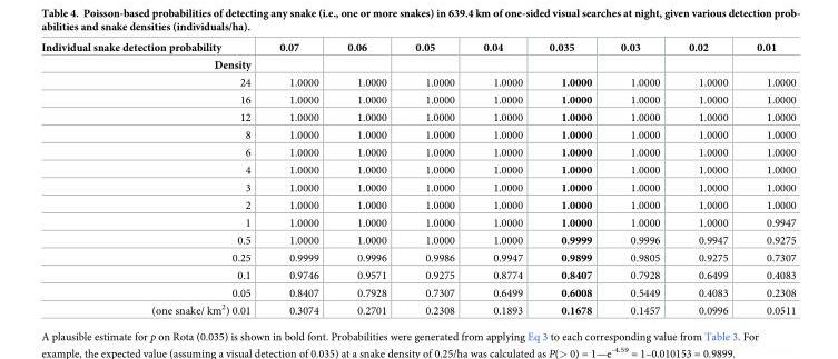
<table><thead><tr><td rowspan="2">Individual snake detection probability Density</td><td rowspan="2">0.07</td><td rowspan="2">0.06</td><td rowspan="2">0.05</td><td rowspan="2">0.04</td><td rowspan="2">0.035</td><td rowspan="2">0.03</td><td rowspan="2">0.02</td><td rowspan="2">0.01</td></tr><tr></tr></thead><tbody><tr><td>24</td><td>1.0000</td><td>1.0000</td><td>1.0000</td><td>1.0000</td><td>1.0000</td><td>1.0000</td><td>1.0000</td><td>1.0000</td></tr><tr><td>16</td><td>1.0000</td><td>1.0000</td><td>1.0000</td><td>1.0000</td><td>1.0000</td><td>1.0000</td><td>1.0000</td><td>1.0000</td></tr><tr><td>12</td><td>1.0000</td><td>1.0000</td><td>1.0000</td><td>1.0000</td><td>1.0000</td><td>1.0000</td><td>1.0000</td><td>1.0000</td></tr><tr><td>8</td><td>1.0000</td><td>1.0000</td><td>1.0000</td><td>1.0000</td><td>1.0000</td><td>1.0000</td><td>1.0000</td><td>1.0000</td></tr><tr><td>6</td><td>1.0000</td><td>1.0000</td><td>1.0000</td><td>1.0000</td><td>1.0000</td><td>1.0000</td><td>1.0000</td><td>1.0000</td></tr><tr><td>4</td><td>1.0000</td><td>1.0000</td><td>1.0000</td><td>1.0000</td><td>1.0000</td><td>1.0000</td><td>1.0000</td><td>1.0000</td></tr><tr><td>3</td><td>1.0000</td><td>1.0000</td><td>1.0000</td><td>1.0000</td><td>1.0000</td><td>1.0000</td><td>1.0000</td><td>1.0000</td></tr><tr><td>2</td><td>1.0000</td><td>1.0000</td><td>1.0000</td><td>1.0000</td><td>1.0000</td><td>1.0000</td><td>1.0000</td><td>1.0000</td></tr><tr><td>1</td><td>1.0000</td><td>1.0000</td><td>1.0000</td><td>1.0000</td><td>1.0000</td><td>1.0000</td><td>1.0000</td><td>0.9947</td></tr><tr><td>0.5</td><td>1.0000</td><td>1.0000</td><td>1.0000</td><td>1.0000</td><td>0.9999</td><td>0.9996</td><td>0.9947</td><td>0.9275</td></tr><tr><td>0.25</td><td>0.9999</td><td>0.9996</td><td>0.9986</td><td>0.9947</td><td>0.9899</td><td>0.9805</td><td>0.9275</td><td>0.7307</td></tr><tr><td>0.1</td><td>0.9746</td><td>0.9571</td><td>0.9275</td><td>0.8774</td><td>0.8407</td><td>0.7928</td><td>0.6499</td><td>0.4083</td></tr><tr><td>0.05</td><td>0.8407</td><td>0.7928</td><td>0.7307</td><td>0.6499</td><td>0.6008</td><td>0.5449</td><td>0.4083</td><td>0.2308</td></tr><tr><td>(one snake/ km<sup>2</sup>) 0.01</td><td>0.3074</td><td>0.2701</td><td>0.2308</td><td>0.1893</td><td>0.1678</td><td>0.1457</td><td>0.0996</td><td>0.0511</td></tr></tbody></table>